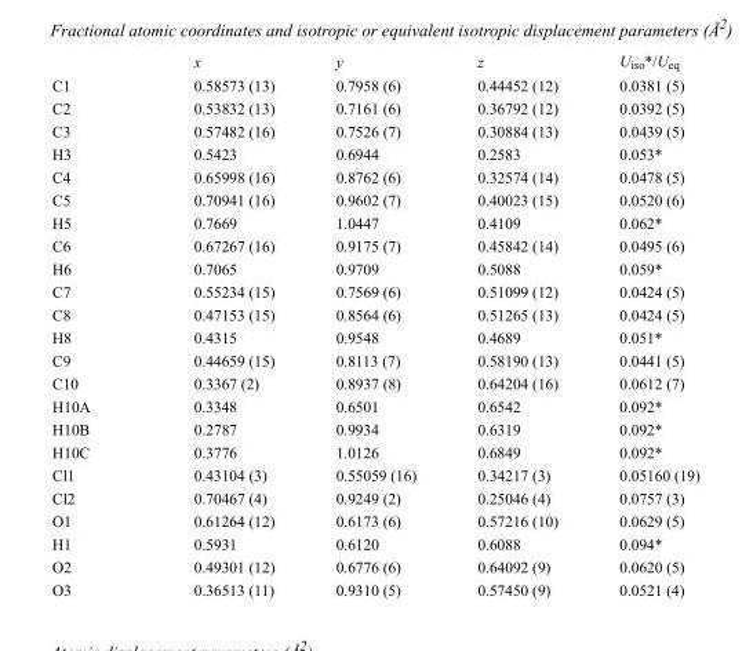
<table><thead><tr><td></td><td>x</td><td>y</td><td>z</td><td>U<sub>iso</sub>*/U<sub>eq</sub></td></tr></thead><tbody><tr><td>C1</td><td>0.58573 (13)</td><td>0.7958 (6)</td><td>0.44452 (12)</td><td>0.0381 (5)</td></tr><tr><td>C2</td><td>0.53832 (13)</td><td>0.7161 (6)</td><td>0.36792 (12)</td><td>0.0392 (5)</td></tr><tr><td>C3</td><td>0.57482 (16)</td><td>0.7526 (7)</td><td>0.30884 (13)</td><td>0.0439 (5)</td></tr><tr><td>H3</td><td>0.5423</td><td>0.6944</td><td>0.2583</td><td>0.053*</td></tr><tr><td>C4</td><td>0.65998 (16)</td><td>0.8762 (6)</td><td>0.32574 (14)</td><td>0.0478 (5)</td></tr><tr><td>C5</td><td>0.70941 (16)</td><td>0.9602 (7)</td><td>0.40023 (15)</td><td>0.0520 (6)</td></tr><tr><td>H5</td><td>0.7669</td><td>1.0447</td><td>0.4109</td><td>0.062*</td></tr><tr><td>C6</td><td>0.67267 (16)</td><td>0.9175 (7)</td><td>0.45842 (14)</td><td>0.0495 (6)</td></tr><tr><td>H6</td><td>0.7065</td><td>0.9709</td><td>0.5088</td><td>0.059*</td></tr><tr><td>C7</td><td>0.55234 (15)</td><td>0.7569 (6)</td><td>0.51099 (12)</td><td>0.0424 (5)</td></tr><tr><td>C8</td><td>0.47153 (15)</td><td>0.8564 (6)</td><td>0.51265 (13)</td><td>0.0424 (5)</td></tr><tr><td>H8</td><td>0.4315</td><td>0.9548</td><td>0.4689</td><td>0.051*</td></tr><tr><td>C9</td><td>0.44659 (15)</td><td>0.8113 (7)</td><td>0.58190 (13)</td><td>0.0441 (5)</td></tr><tr><td>C10</td><td>0.3367 (2)</td><td>0.8937 (8)</td><td>0.64204 (16)</td><td>0.0612 (7)</td></tr><tr><td>H10A</td><td>0.3348</td><td>0.6501</td><td>0.6542</td><td>0.092*</td></tr><tr><td>H10B</td><td>0.2787</td><td>0.9934</td><td>0.6319</td><td>0.092*</td></tr><tr><td>H10C</td><td>0.3776</td><td>1.0126</td><td>0.6849</td><td>0.092*</td></tr><tr><td>Cl1</td><td>0.43104 (3)</td><td>0.55059 (16)</td><td>0.34217 (3)</td><td>0.05160 (19)</td></tr><tr><td>Cl2</td><td>0.70467 (4)</td><td>0.9249 (2)</td><td>0.25046 (4)</td><td>0.0757 (3)</td></tr><tr><td>O1</td><td>0.61264 (12)</td><td>0.6173 (6)</td><td>0.57216 (10)</td><td>0.0629 (5)</td></tr><tr><td>H1</td><td>0.5931</td><td>0.6120</td><td>0.6088</td><td>0.094*</td></tr><tr><td>O2</td><td>0.49301 (12)</td><td>0.6776 (6)</td><td>0.64092 (9)</td><td>0.0620 (5)</td></tr><tr><td>O3</td><td>0.36513 (11)</td><td>0.9310 (5)</td><td>0.57450 (9)</td><td>0.0521 (4)</td></tr></tbody></table>